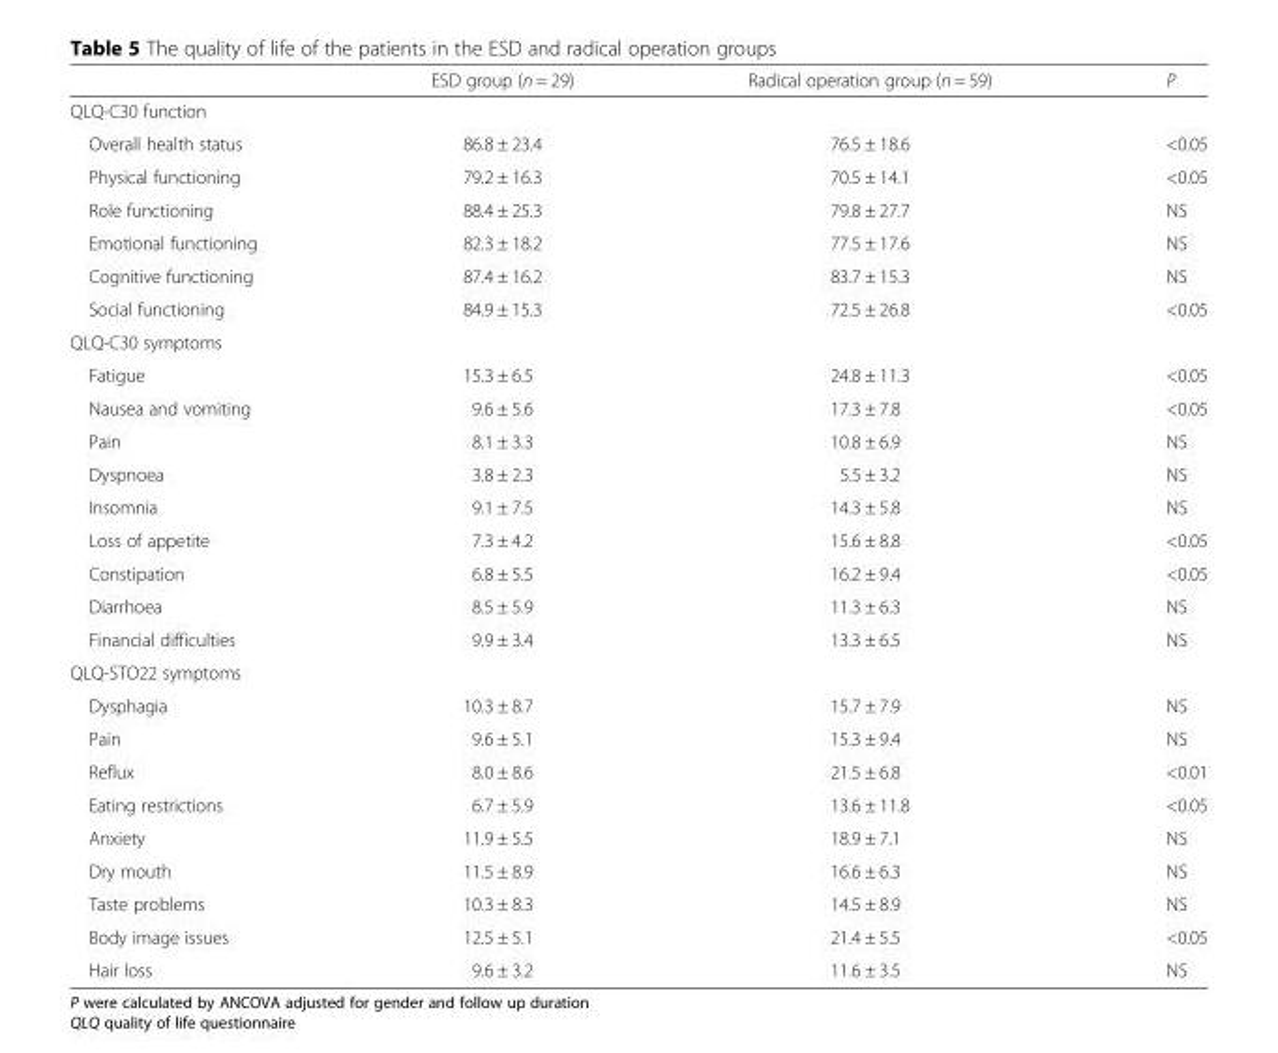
<table><thead><tr><td></td><td>ESD group (n = 29)</td><td>Radical operation group (n = 59)</td><td>P</td></tr></thead><tbody><tr><td colspan="4">QLQ-C30 function</td></tr><tr><td>Overall health status</td><td>86.8 ± 23.4</td><td>76.5 ± 18.6</td><td>&lt;0.05</td></tr><tr><td>Physical functioning</td><td>79.2 ± 16.3</td><td>70.5 ± 14.1</td><td>&lt;0.05</td></tr><tr><td>Role functioning</td><td>88.4 ± 25.3</td><td>79.8 ± 27.7</td><td>NS</td></tr><tr><td>Emotional functioning</td><td>82.3 ± 18.2</td><td>77.5 ± 17.6</td><td>NS</td></tr><tr><td>Cognitive functioning</td><td>87.4 ± 16.2</td><td>83.7 ± 15.3</td><td>NS</td></tr><tr><td>Social functioning</td><td>84.9 ± 15.3</td><td>72.5 ± 26.8</td><td>&lt;0.05</td></tr><tr><td colspan="4">QLQ-C30 symptoms</td></tr><tr><td>Fatigue</td><td>15.3 ± 6.5</td><td>24.8 ± 11.3</td><td>&lt;0.05</td></tr><tr><td>Nausea and vomiting</td><td>9.6 ± 5.6</td><td>17.3 ± 7.8</td><td>&lt;0.05</td></tr><tr><td>Pain</td><td>8.1 ± 3.3</td><td>10.8 ± 6.9</td><td>NS</td></tr><tr><td>Dyspnoea</td><td>3.8 ± 2.3</td><td>5.5 ± 3.2</td><td>NS</td></tr><tr><td>Insomnia</td><td>9.1 ± 7.5</td><td>14.3 ± 5.8</td><td>NS</td></tr><tr><td>Loss of appetite</td><td>7.3 ± 4.2</td><td>15.6 ± 8.8</td><td>&lt;0.05</td></tr><tr><td>Constipation</td><td>6.8 ± 5.5</td><td>16.2 ± 9.4</td><td>&lt;0.05</td></tr><tr><td>Diarrhoea</td><td>8.5 ± 5.9</td><td>11.3 ± 6.3</td><td>NS</td></tr><tr><td>Financial difficulties</td><td>9.9 ± 3.4</td><td>13.3 ± 6.5</td><td>NS</td></tr><tr><td colspan="4">QLQ-STO22 symptoms</td></tr><tr><td>Dysphagia</td><td>10.3 ± 8.7</td><td>15.7 ± 7.9</td><td>NS</td></tr><tr><td>Pain</td><td>9.6 ± 5.1</td><td>15.3 ± 9.4</td><td>NS</td></tr><tr><td>Reflux</td><td>8.0 ± 8.6</td><td>21.5 ± 6.8</td><td>&lt;0.01</td></tr><tr><td>Eating restrictions</td><td>6.7 ± 5.9</td><td>13.6 ± 11.8</td><td>&lt;0.05</td></tr><tr><td>Anxiety</td><td>11.9 ± 5.5</td><td>18.9 ± 7.1</td><td>NS</td></tr><tr><td>Dry mouth</td><td>11.5 ± 8.9</td><td>16.6 ± 6.3</td><td>NS</td></tr><tr><td>Taste problems</td><td>10.3 ± 8.3</td><td>14.5 ± 8.9</td><td>NS</td></tr><tr><td>Body image issues</td><td>12.5 ± 5.1</td><td>21.4 ± 5.5</td><td>&lt;0.05</td></tr><tr><td>Hair loss</td><td>9.6 ± 3.2</td><td>11.6 ± 3.5</td><td>NS</td></tr></tbody></table>